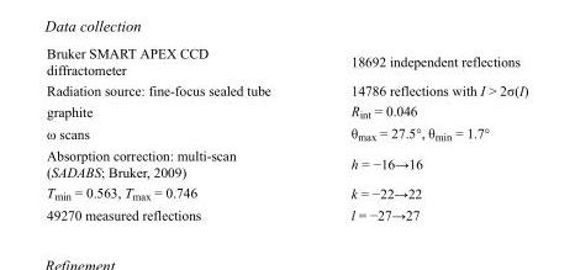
<table><tbody><tr><td>Bruker SMART APEX CCD diffractometer</td><td>18692 independent reflections</td></tr><tr><td>Radiation source: fine-focus sealed tube</td><td>14786 reflections with I &gt; 2σ(I)</td></tr><tr><td>graphite</td><td>R<sub>int</sub> = 0.046</td></tr><tr><td>ω scans</td><td>θ<sub>max</sub> = 27.5°, θ<sub>min</sub> = 1.7°</td></tr><tr><td>Absorption correction: multi-scan (SADABS; Bruker, 2009)</td><td>h = −16→16</td></tr><tr><td>T<sub>min</sub> = 0.563, T<sub>max</sub> = 0.746</td><td>k = −22→22</td></tr><tr><td>49270 measured reflections</td><td>l = −27→27</td></tr></tbody></table>